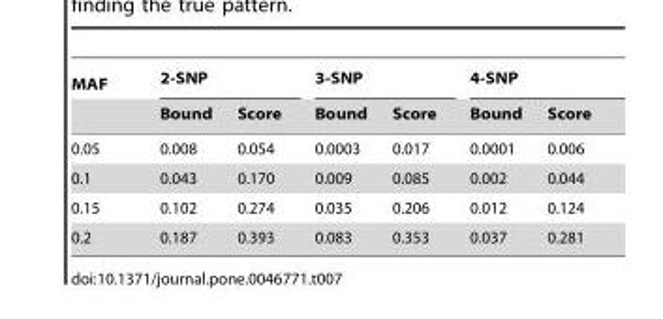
<table><thead><tr><td rowspan="2">MAF</td><td colspan="2">2-SNP</td><td colspan="2">3-SNP</td><td colspan="2">4-SNP</td></tr><tr><td>Bound</td><td>Score</td><td>Bound</td><td>Score</td><td>Bound</td><td>Score</td></tr></thead><tbody><tr><td>0.05</td><td>0.008</td><td>0.054</td><td>0.0003</td><td>0.017</td><td>0.0001</td><td>0.006</td></tr><tr><td>0.1</td><td>0.043</td><td>0.170</td><td>0.009</td><td>0.085</td><td>0.002</td><td>0.044</td></tr><tr><td>0.15</td><td>0.102</td><td>0.274</td><td>0.035</td><td>0.206</td><td>0.012</td><td>0.124</td></tr><tr><td>0.2</td><td>0.187</td><td>0.393</td><td>0.083</td><td>0.353</td><td>0.037</td><td>0.281</td></tr></tbody></table>